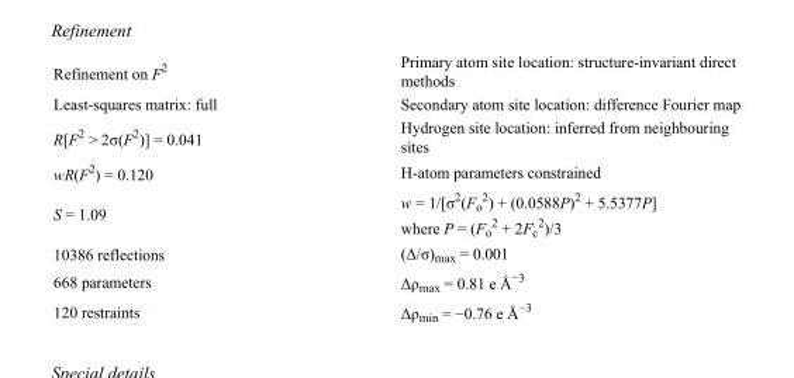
<table><tbody><tr><td>Refinement on F<sup>2</sup></td><td>Primary atom site location: structure-invariant direct methods</td></tr><tr><td>Least-squares matrix: full</td><td>Secondary atom site location: difference Fourier map</td></tr><tr><td>R[F<sup>2</sup> &gt; 2σ(F<sup>2</sup>)] = 0.041</td><td>Hydrogen site location: inferred from neighbouring sites</td></tr><tr><td>wR(F<sup>2</sup>) = 0.120</td><td>H-atom parameters constrained</td></tr><tr><td>S = 1.09</td><td>w = 1/[σ<sup>2</sup>(F<sub>o</sub> <sup>2</sup>) + (0.0588P)<sup>2</sup> + 5.5377P] where P = (F<sub>o</sub> <sup>2</sup> + 2F<sub>c</sub> <sup>2</sup>)/3</td></tr><tr><td>10386 reflections</td><td>(Δ/σ)<sub>max</sub> = 0.001</td></tr><tr><td>668 parameters</td><td>Δρ<sub>max</sub> = 0.81 e Å<sup>−3</sup></td></tr><tr><td>120 restraints</td><td>Δρ<sub>min</sub> = −0.76 e Å<sup>−3</sup></td></tr></tbody></table>